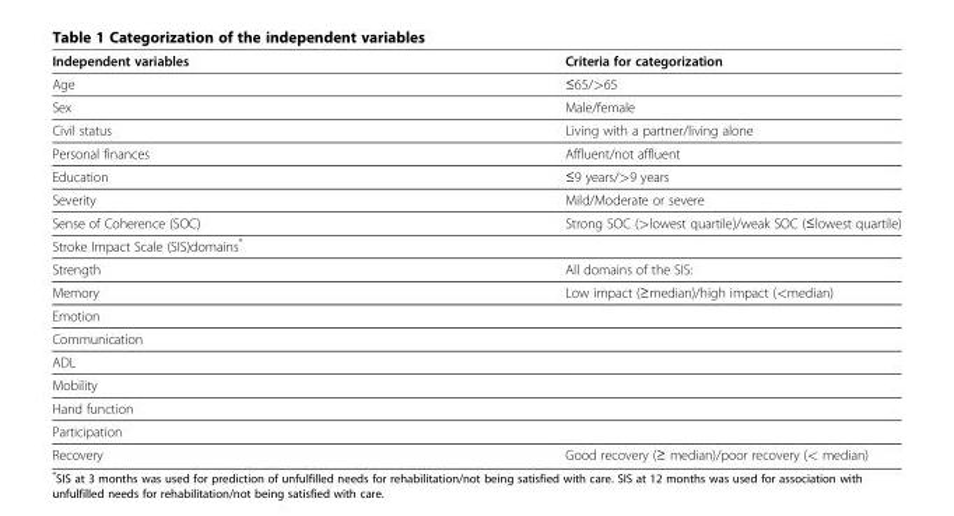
<table><thead><tr><td>Independent variables</td><td>Criteria for categorization</td></tr></thead><tbody><tr><td>Age</td><td>≤65/&gt;65</td></tr><tr><td>Sex</td><td>Male/female</td></tr><tr><td>Civil status</td><td>Living with a partner/living alone</td></tr><tr><td>Personal finances</td><td>Affluent/not affluent</td></tr><tr><td>Education</td><td>≤9 years/&gt;9 years</td></tr><tr><td>Severity</td><td>Mild/Moderate or severe</td></tr><tr><td>Sense of Coherence (SOC)</td><td>Strong SOC (&gt;lowest quartile)/weak SOC (≤lowest quartile)</td></tr><tr><td colspan="2">Stroke Impact Scale (SIS)domains*</td></tr><tr><td>Strength</td><td>All domains of the SIS:</td></tr><tr><td>Memory</td><td>Low impact (≥median)/high impact (&lt;median)</td></tr><tr><td colspan="2">Emotion</td></tr><tr><td colspan="2">Communication</td></tr><tr><td colspan="2">ADL</td></tr><tr><td colspan="2">Mobility</td></tr><tr><td colspan="2">Hand function</td></tr><tr><td colspan="2">Participation</td></tr><tr><td>Recovery</td><td>Good recovery (≥ median)/poor recovery (&lt; median)</td></tr></tbody></table>